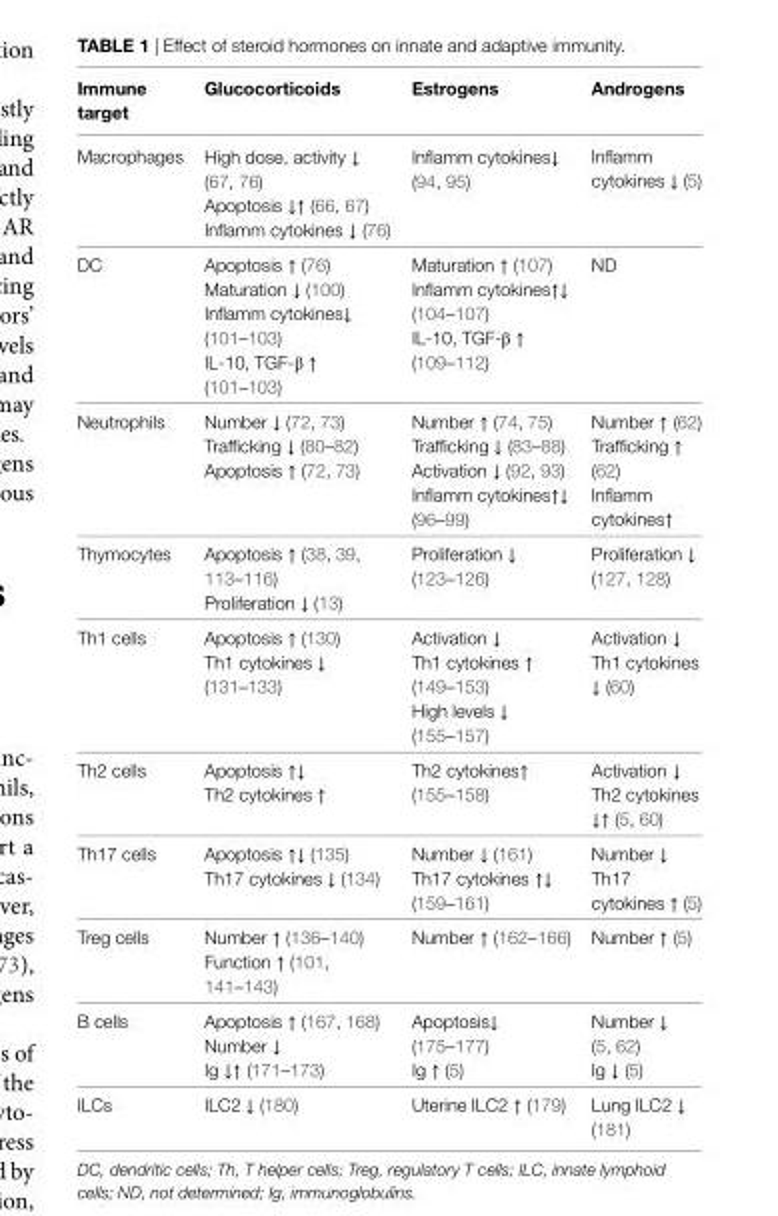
<table><thead><tr><td>immune target</td><td>Glucocorticoids</td><td>estrogens</td><td>Androgens</td></tr></thead><tbody><tr><td>Macrophages</td><td>High dose, activity ↓ (67, 76) Apoptosis ↓↑ (66, 67) Inflamm cytokines ↓ (76)</td><td>Inflamm cytokines↓ (94, 95)</td><td>Inflamm cytokines ↓ (5)</td></tr><tr><td>DC</td><td>Apoptosis ↑ (76) Maturation ↓ (100) Inflamm cytokines↓ (101–103) IL-10, TGF-β ↑ (101–103)</td><td>Maturation ↑ (107) Inflamm cytokines↑↓ (104–107) IL-10, TGF-β ↑ (109–112)</td><td>ND</td></tr><tr><td>Neutrophils</td><td>Number ↓ (72, 73) Trafficking ↓ (80–82) Apoptosis ↑ (72, 73)</td><td>Number ↑ (74, 75) Trafficking ↓ (83–88) Activation ↓ (92, 93) Inflamm cytokines↑↓ (96–99)</td><td>Number ↑ (62) Trafficking ↑ (62) Inflamm cytokines↑</td></tr><tr><td>Thymocytes</td><td>Apoptosis ↑ (38, 39, 113–116) Proliferation ↓ (13)</td><td>Proliferation ↓ (123–126)</td><td>Proliferation ↓ (127, 128)</td></tr><tr><td>Th1 cells</td><td>Apoptosis ↑ (130) Th1 cytokines ↓ (131–133)</td><td>Activation ↓ Th1 cytokines ↑ (149–153) High levels ↓ (155–157)</td><td>Activation ↓ Th1 cytokines ↓ (60)</td></tr><tr><td>Th2 cells</td><td>Apoptosis ↑↓ Th2 cytokines ↑</td><td>Th2 cytokines↑ (155–158)</td><td>Activation ↓ Th2 cytokines ↓↑ (5, 60)</td></tr><tr><td>Th17 cells</td><td>Apoptosis ↑↓ (135) Th17 cytokines ↓ (134)</td><td>Number ↓ (161) Th17 cytokines ↑↓ (159–161)</td><td>Number ↓ Th17 cytokines ↑ (5)</td></tr><tr><td>Treg cells</td><td>Number ↑ (136–140) Function ↑ (101, 141–143)</td><td>Number ↑ (162–166)</td><td>Number ↑ (5)</td></tr><tr><td>B cells</td><td>Apoptosis ↑ (167, 168) Number ↓ Ig ↓↑ (171–173)</td><td>Apoptosis↓ (175–177) Ig ↑ (5)</td><td>Number ↓ (5, 62) Ig ↓ (5)</td></tr><tr><td>ILCs</td><td>ILC2 ↓ (180)</td><td>Uterine ILC2 ↑ (179)</td><td>Lung ILC2 ↓ (181)</td></tr></tbody></table>